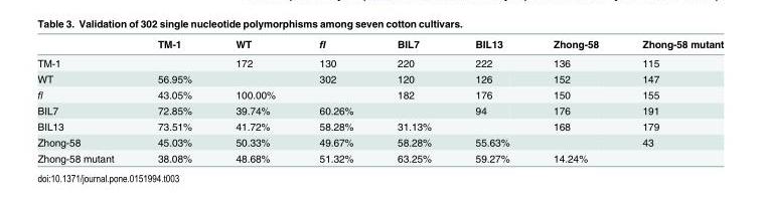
<table><thead><tr><td></td><td>TM-1</td><td>WT</td><td>fl</td><td>BIL7</td><td>BIL13</td><td>Zhong-58</td><td>Zhong-58 mutant</td></tr></thead><tbody><tr><td>TM-1</td><td></td><td>172</td><td>130</td><td>220</td><td>222</td><td>136</td><td>115</td></tr><tr><td>WT</td><td>56.95%</td><td></td><td>302</td><td>120</td><td>126</td><td>152</td><td>147</td></tr><tr><td>fl</td><td>43.05%</td><td>100.00%</td><td></td><td>182</td><td>176</td><td>150</td><td>155</td></tr><tr><td>BIL7</td><td>72.85%</td><td>39.74%</td><td>60.26%</td><td></td><td>94</td><td>176</td><td>191</td></tr><tr><td>BIL13</td><td>73.51%</td><td>41.72%</td><td>58.28%</td><td>31.13%</td><td></td><td>168</td><td>179</td></tr><tr><td>Zhong-58</td><td>45.03%</td><td>50.33%</td><td>49.67%</td><td>58.28%</td><td>55.63%</td><td></td><td>43</td></tr><tr><td>Zhong-58 mutant</td><td>38.08%</td><td>48.68%</td><td>51.32%</td><td>63.25%</td><td>59.27%</td><td>14.24%</td><td></td></tr></tbody></table>